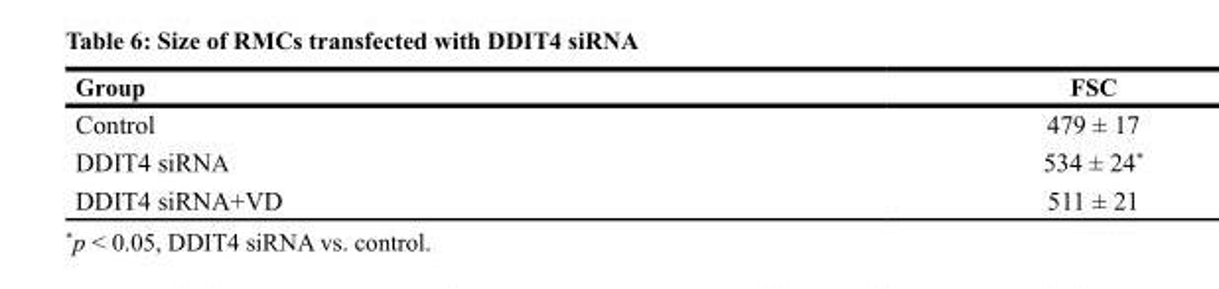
<table><thead><tr><td>Group</td><td>FSC</td></tr></thead><tbody><tr><td>Control</td><td>479 ± 17</td></tr><tr><td>DDIT4 siRNA</td><td>534 ± 24*</td></tr><tr><td>DDIT4 siRNA+VD</td><td>511 ± 21</td></tr></tbody></table>